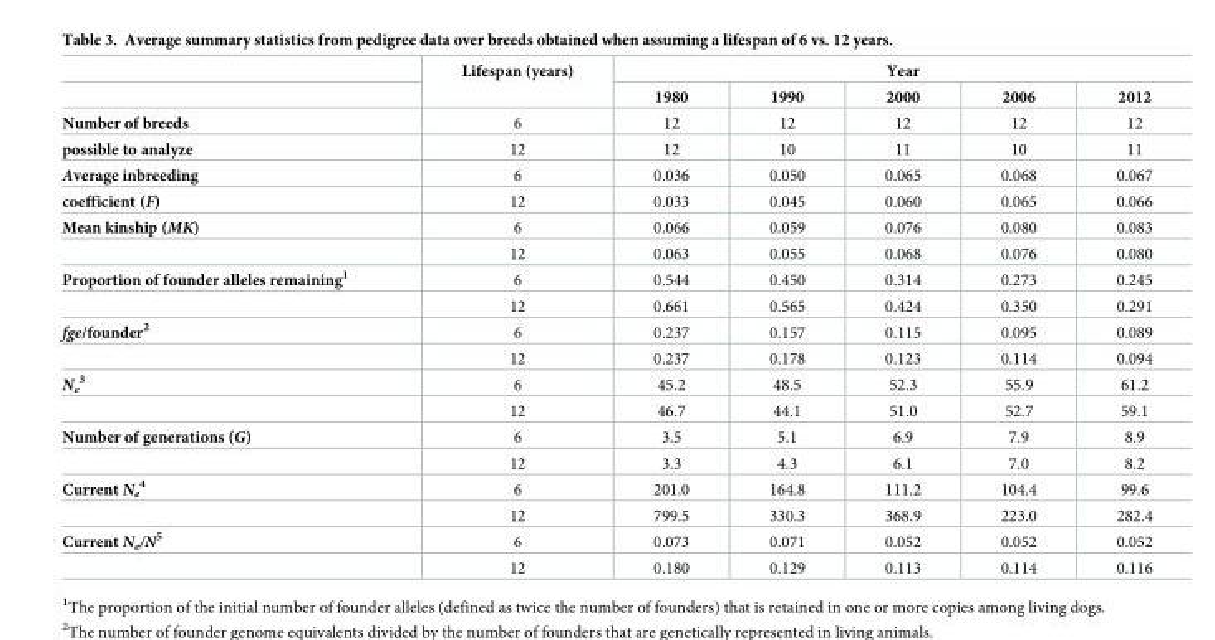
<table><thead><tr><td rowspan="2"></td><td rowspan="2">Lifespan (years)</td><td colspan="5">Year</td></tr><tr><td>1980</td><td>1990</td><td>2000</td><td>2006</td><td>2012</td></tr></thead><tbody><tr><td>Number of breeds</td><td>6</td><td>12</td><td>12</td><td>12</td><td>12</td><td>12</td></tr><tr><td>possible to analyze</td><td>12</td><td>12</td><td>10</td><td>11</td><td>10</td><td>11</td></tr><tr><td>Average inbreeding</td><td>6</td><td>0.036</td><td>0.050</td><td>0.065</td><td>0.068</td><td>0.067</td></tr><tr><td>coefficient (F)</td><td>12</td><td>0.033</td><td>0.045</td><td>0.060</td><td>0.065</td><td>0.066</td></tr><tr><td rowspan="2">Mean kinship (MK)</td><td>6</td><td>0.066</td><td>0.059</td><td>0.076</td><td>0.080</td><td>0.083</td></tr><tr><td>12</td><td>0.063</td><td>0.055</td><td>0.068</td><td>0.076</td><td>0.080</td></tr><tr><td rowspan="2">Proportion of founder alleles remaining<sup>1</sup></td><td>6</td><td>0.544</td><td>0.450</td><td>0.314</td><td>0.273</td><td>0.245</td></tr><tr><td>12</td><td>0.661</td><td>0.565</td><td>0.424</td><td>0.350</td><td>0.291</td></tr><tr><td rowspan="2">fge/founder<sup>2</sup></td><td>6</td><td>0.237</td><td>0.157</td><td>0.115</td><td>0.095</td><td>0.089</td></tr><tr><td>12</td><td>0.237</td><td>0.178</td><td>0.123</td><td>0.114</td><td>0.094</td></tr><tr><td rowspan="2">N<sub>e</sub> <sup>3</sup></td><td>6</td><td>45.2</td><td>48.5</td><td>52.3</td><td>55.9</td><td>61.2</td></tr><tr><td>12</td><td>46.7</td><td>44.1</td><td>51.0</td><td>52.7</td><td>59.1</td></tr><tr><td rowspan="2">Number of generations (G)</td><td>6</td><td>3.5</td><td>5.1</td><td>6.9</td><td>7.9</td><td>8.9</td></tr><tr><td>12</td><td>3.3</td><td>4.3</td><td>6.1</td><td>7.0</td><td>8.2</td></tr><tr><td rowspan="2">Current N<sub>e</sub> <sup>4</sup></td><td>6</td><td>201.0</td><td>164.8</td><td>111.2</td><td>104.4</td><td>99.6</td></tr><tr><td>12</td><td>799.5</td><td>330.3</td><td>368.9</td><td>223.0</td><td>282.4</td></tr><tr><td rowspan="2">Current N<sub>e</sub>/N<sup>5</sup></td><td>6</td><td>0.073</td><td>0.071</td><td>0.052</td><td>0.052</td><td>0.052</td></tr><tr><td>12</td><td>0.180</td><td>0.129</td><td>0.113</td><td>0.114</td><td>0.116</td></tr></tbody></table>